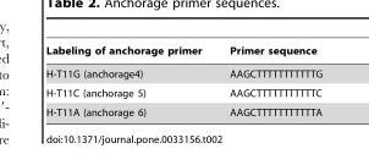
<table><thead><tr><td>Labeling of anchorage primer</td><td>Primer sequence</td></tr></thead><tbody><tr><td>H-T11G (anchorage4)</td><td>AAGCTTTTTTTTTTTG</td></tr><tr><td>H-T11C (anchorage 5)</td><td>AAGCTTTTTTTTTTTC</td></tr><tr><td>H-T11A (anchorage 6)</td><td>AAGCTTTTTTTTTTTA</td></tr></tbody></table>